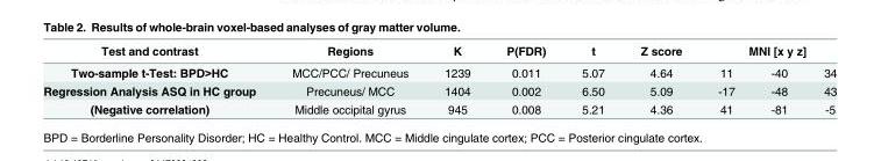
<table><thead><tr><td rowspan="2">Test and contrast Two-sample t-Test: BPD&gt;HC</td><td rowspan="2">Regions MCC/PCC/ Precuneus</td><td rowspan="2">K 1239</td><td rowspan="2">P(FDR) 0.011</td><td rowspan="2">t 5.07</td><td rowspan="2">Z score 4.64</td><td colspan="3">MNI [x y z]</td></tr><tr><td>11</td><td>-40</td><td>34</td></tr></thead><tbody><tr><td>Regression Analysis ASQ in HC group</td><td>Precuneus/ MCC</td><td>1404</td><td>0.002</td><td>6.50</td><td>5.09</td><td>-17</td><td>-48</td><td>43</td></tr><tr><td>(Negative correlation)</td><td>Middle occipital gyrus</td><td>945</td><td>0.008</td><td>5.21</td><td>4.36</td><td>41</td><td>-81</td><td>-5</td></tr></tbody></table>